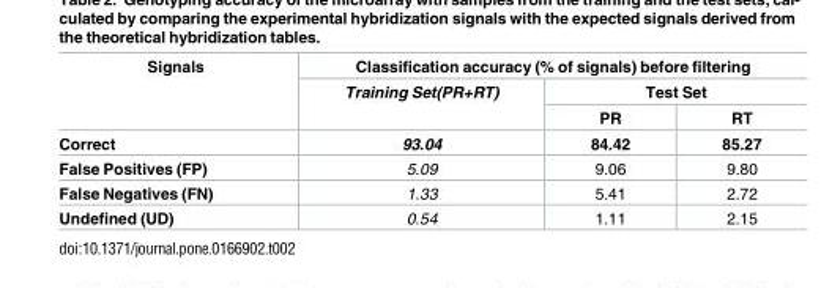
<table><thead><tr><td rowspan="3">Signals</td><td colspan="3">Classification accuracy (% of signals) before filtering</td></tr><tr><td rowspan="2">Training Set(PR+RT)</td><td colspan="2">Test Set</td></tr><tr><td>PR</td><td>RT</td></tr></thead><tbody><tr><td>Correct</td><td>93.04</td><td>84.42</td><td>85.27</td></tr><tr><td>False Positives (FP)</td><td>5.09</td><td>9.06</td><td>9.80</td></tr><tr><td>False Negatives (FN)</td><td>1.33</td><td>5.41</td><td>2.72</td></tr><tr><td>Undefined (UD)</td><td>0.54</td><td>1.11</td><td>2.15</td></tr></tbody></table>